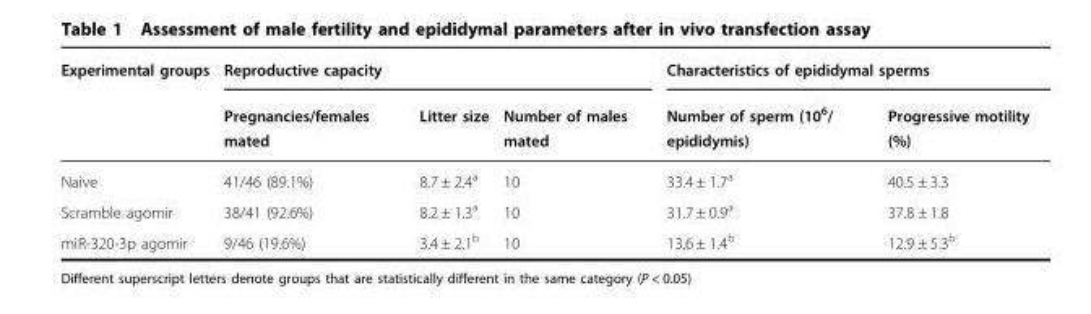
<table><thead><tr><td rowspan="2">Experimental groups</td><td colspan="3">Reproductive capacity</td><td colspan="2">Characteristics of epididymal sperms</td></tr><tr><td>Pregnancies/females mated</td><td>Litter size</td><td>Number of males mated</td><td>Number of sperm (10<sup>6</sup>/ epididymis)</td><td>Progressive motility (%)</td></tr></thead><tbody><tr><td>Naive</td><td>41/46 (89.1%)</td><td>8.7 ± 2.4<sup>a</sup></td><td>10</td><td>33.4 ± 1.7<sup>a</sup></td><td>40.5 ± 3.3</td></tr><tr><td>Scramble agomir</td><td>38/41 (92.6%)</td><td>8.2 ± 1.3<sup>a</sup></td><td>10</td><td>31.7 ± 0.9<sup>a</sup></td><td>37.8 ± 1.8</td></tr><tr><td>miR-320-3p agomir</td><td>9/46 (19.6%)</td><td>3.4 ± 2.1<sup>b</sup></td><td>10</td><td>13.6 ± 1.4<sup>b</sup></td><td>12.9 ± 5.3<sup>b</sup></td></tr></tbody></table>